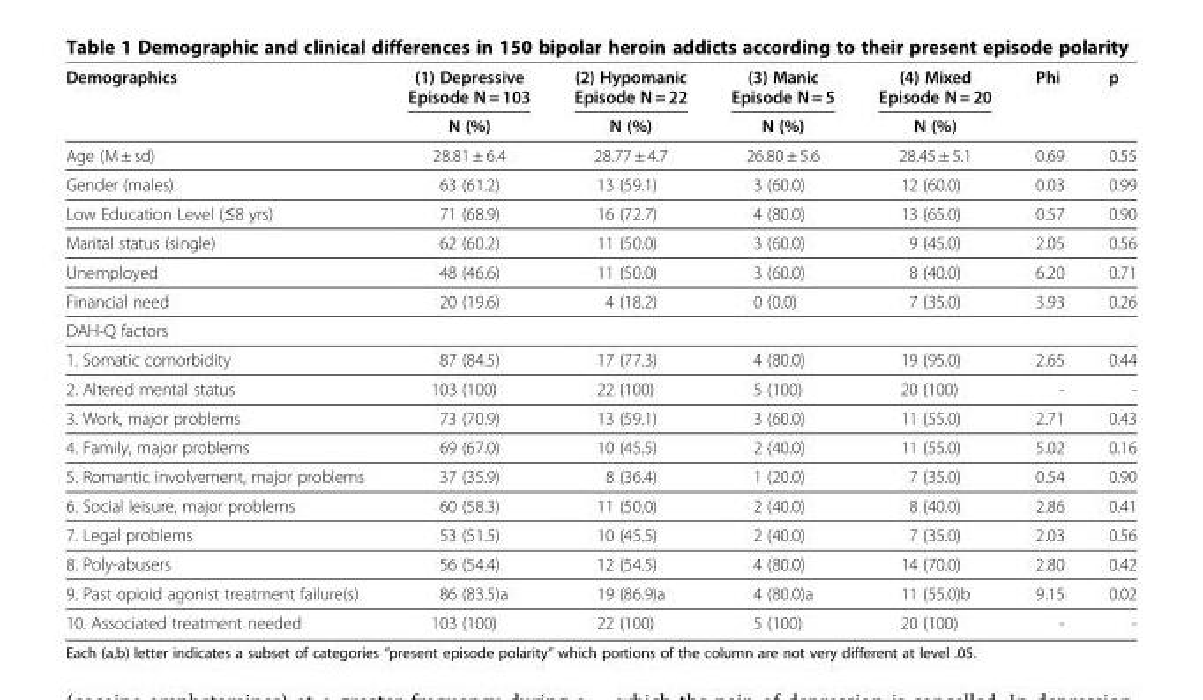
<table><thead><tr><td rowspan="2">Demographics</td><td rowspan="2">(1) Depressive Episode N = 103 N (%)</td><td rowspan="2">(2) Hypomanic Episode N = 22 N (%)</td><td rowspan="2">(3) Manic Episode N = 5 N (%)</td><td rowspan="2">(4) Mixed Episode N = 20 N (%)</td><td rowspan="2">Phi</td><td rowspan="2">p</td></tr><tr></tr></thead><tbody><tr><td>Age (M ± sd)</td><td>28.81 ± 6.4</td><td>28.77 ± 4.7</td><td>26.80 ± 5.6</td><td>28.45 ± 5.1</td><td>0.69</td><td>0.55</td></tr><tr><td>Gender (males)</td><td>63 (61.2)</td><td>13 (59.1)</td><td>3 (60.0)</td><td>12 (60.0)</td><td>0.03</td><td>0.99</td></tr><tr><td>Low Education Level (≤8 yrs)</td><td>71 (68.9)</td><td>16 (72.7)</td><td>4 (80.0)</td><td>13 (65.0)</td><td>0.57</td><td>0.90</td></tr><tr><td>Marital status (single)</td><td>62 (60.2)</td><td>11 (50.0)</td><td>3 (60.0)</td><td>9 (45.0)</td><td>2.05</td><td>0.56</td></tr><tr><td>Unemployed</td><td>48 (46.6)</td><td>11 (50.0)</td><td>3 (60.0)</td><td>8 (40.0)</td><td>6.20</td><td>0.71</td></tr><tr><td>Financial need</td><td>20 (19.6)</td><td>4 (18.2)</td><td>0 (0.0)</td><td>7 (35.0)</td><td>3.93</td><td>0.26</td></tr><tr><td colspan="7">DAH-Q factors</td></tr><tr><td>1. Somatic comorbidity</td><td>87 (84.5)</td><td>17 (77.3)</td><td>4 (80.0)</td><td>19 (95.0)</td><td>2.65</td><td>0.44</td></tr><tr><td>2. Altered mental status</td><td>103 (100)</td><td>22 (100)</td><td>5 (100)</td><td>20 (100)</td><td>-</td><td>-</td></tr><tr><td>3. Work, major problems</td><td>73 (70.9)</td><td>13 (59.1)</td><td>3 (60.0)</td><td>11 (55.0)</td><td>2.71</td><td>0.43</td></tr><tr><td>4. Family, major problems</td><td>69 (67.0)</td><td>10 (45.5)</td><td>2 (40.0)</td><td>11 (55.0)</td><td>5.02</td><td>0.16</td></tr><tr><td>5. Romantic involvement, major problems</td><td>37 (35.9)</td><td>8 (36.4)</td><td>1 (20.0)</td><td>7 (35.0)</td><td>0.54</td><td>0.90</td></tr><tr><td>6. Social leisure, major problems</td><td>60 (58.3)</td><td>11 (50.0)</td><td>2 (40.0)</td><td>8 (40.0)</td><td>2.86</td><td>0.41</td></tr><tr><td>7. Legal problems</td><td>53 (51.5)</td><td>10 (45.5)</td><td>2 (40.0)</td><td>7 (35.0)</td><td>2.03</td><td>0.56</td></tr><tr><td>8. Poly-abusers</td><td>56 (54.4)</td><td>12 (54.5)</td><td>4 (80.0)</td><td>14 (70.0)</td><td>2.80</td><td>0.42</td></tr><tr><td>9. Past opioid agonist treatment failure(s)</td><td>86 (83.5)a</td><td>19 (86.9)a</td><td>4 (80.0)a</td><td>11 (55.0)b</td><td>9.15</td><td>0.02</td></tr><tr><td>10. Associated treatment needed</td><td>103 (100)</td><td>22 (100)</td><td>5 (100)</td><td>20 (100)</td><td>-</td><td>-</td></tr></tbody></table>